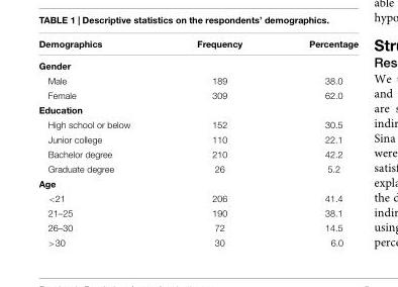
<table><thead><tr><td>Demographics</td><td>Frequency</td><td>Percentage</td></tr></thead><tbody><tr><td colspan="3">Gender</td></tr><tr><td>Male</td><td>189</td><td>38.0</td></tr><tr><td>Female</td><td>309</td><td>62.0</td></tr><tr><td colspan="3">Education</td></tr><tr><td>High school or below</td><td>152</td><td>30.5</td></tr><tr><td>Junior college</td><td>110</td><td>22.1</td></tr><tr><td>Bachelor degree</td><td>210</td><td>42.2</td></tr><tr><td>Graduate degree</td><td>26</td><td>5.2</td></tr><tr><td colspan="3">Age</td></tr><tr><td>&lt;21</td><td>206</td><td>41.4</td></tr><tr><td>21–25</td><td>190</td><td>38.1</td></tr><tr><td>26–30</td><td>72</td><td>14.5</td></tr><tr><td>&gt;30</td><td>30</td><td>6.0</td></tr></tbody></table>